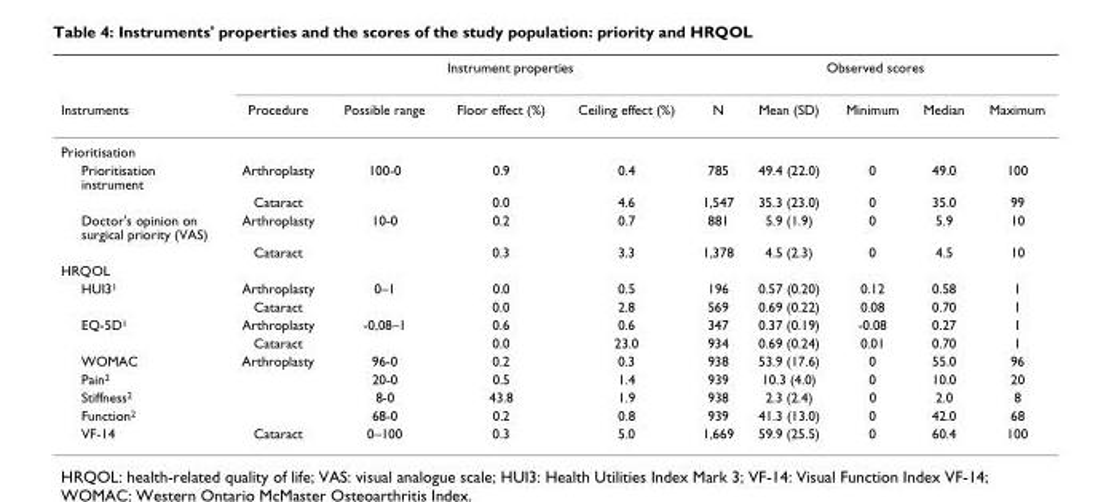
<table><thead><tr><td rowspan="2">Instruments</td><td rowspan="2">Procedure</td><td colspan="3">Instrument properties</td><td colspan="5">Observed scores</td></tr><tr><td>Possible range</td><td>Floor effect (%)</td><td>Ceiling effect (%)</td><td>N</td><td>Mean (SD)</td><td>Minimum</td><td>Median</td><td>Maximum</td></tr></thead><tbody><tr><td colspan="10">Prioritisation</td></tr><tr><td rowspan="2">Prioritisation instrument</td><td>Arthroplasty</td><td>100-0</td><td>0.9</td><td>0.4</td><td>785</td><td>49.4 (22.0)</td><td>0</td><td>49.0</td><td>100</td></tr><tr><td>Cataract</td><td></td><td>0.0</td><td>4.6</td><td>1,547</td><td>35.3 (23.0)</td><td>0</td><td>35.0</td><td>99</td></tr><tr><td rowspan="2">Doctor&#x27;s opinion on surgical priority (VAS)</td><td>Arthroplasty</td><td>10-0</td><td>0.2</td><td>0.7</td><td>881</td><td>5.9 (1.9)</td><td>0</td><td>5.9</td><td>10</td></tr><tr><td>Cataract</td><td></td><td>0.3</td><td>3.3</td><td>1,378</td><td>4.5 (2.3)</td><td>0</td><td>4.5</td><td>10</td></tr><tr><td colspan="10">HRQOL</td></tr><tr><td rowspan="2">HUI3<sup>1</sup></td><td>Arthroplasty</td><td>0–1</td><td>0.0</td><td>0.5</td><td>196</td><td>0.57 (0.20)</td><td>0.12</td><td>0.58</td><td>1</td></tr><tr><td>Cataract</td><td></td><td>0.0</td><td>2.8</td><td>569</td><td>0.69 (0.22)</td><td>0.08</td><td>0.70</td><td>1</td></tr><tr><td rowspan="2">EQ-5D<sup>1</sup></td><td>Arthroplasty</td><td>-0,08–1</td><td>0.6</td><td>0.6</td><td>347</td><td>0.37 (0.19)</td><td>-0.08</td><td>0.27</td><td>1</td></tr><tr><td>Cataract</td><td></td><td>0.0</td><td>23.0</td><td>934</td><td>0.69 (0.24)</td><td>0.01</td><td>0.70</td><td>1</td></tr><tr><td>WOMAC</td><td>Arthroplasty</td><td>96-0</td><td>0.2</td><td>0.3</td><td>938</td><td>53.9 (17.6)</td><td>0</td><td>55.0</td><td>96</td></tr><tr><td>Pain<sup>2</sup></td><td></td><td>20-0</td><td>0.5</td><td>1.4</td><td>939</td><td>10.3 (4.0)</td><td>0</td><td>10.0</td><td>20</td></tr><tr><td>Stiffness<sup>2</sup></td><td></td><td>8-0</td><td>43.8</td><td>1.9</td><td>938</td><td>2.3 (2.4)</td><td>0</td><td>2.0</td><td>8</td></tr><tr><td>Function<sup>2</sup></td><td></td><td>68-0</td><td>0.2</td><td>0.8</td><td>939</td><td>41.3 (13.0)</td><td>0</td><td>42.0</td><td>68</td></tr><tr><td>VF-14</td><td>Cataract</td><td>0–100</td><td>0.3</td><td>5.0</td><td>1,669</td><td>59.9 (25.5)</td><td>0</td><td>60.4</td><td>100</td></tr></tbody></table>